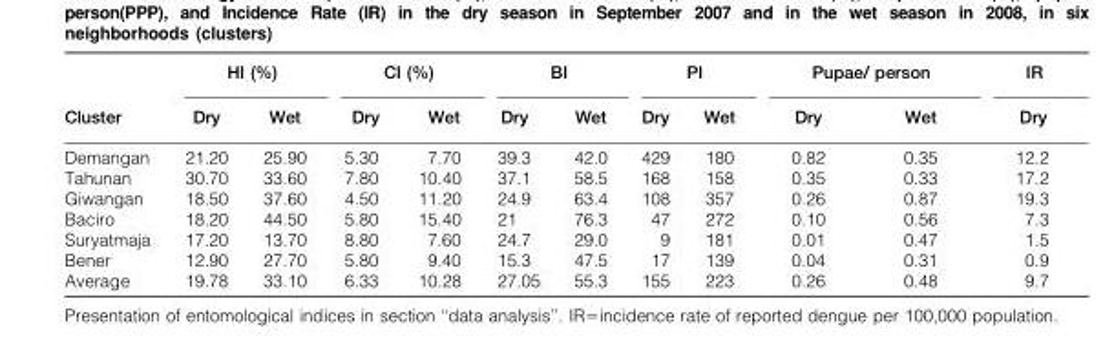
<table><thead><tr><td rowspan="2">Cluster</td><td colspan="2">HI (%)</td><td colspan="2">CI (%)</td><td colspan="2">BI</td><td colspan="2">PI</td><td colspan="2">Pupae/ person</td><td rowspan="2">IR Dry</td></tr><tr><td>Dry</td><td>Wet</td><td>Dry</td><td>Wet</td><td>Dry</td><td>Wet</td><td>Dry</td><td>Wet</td><td>Dry</td><td>Wet</td></tr></thead><tbody><tr><td>Demangan</td><td>21.20</td><td>25.90</td><td>5.30</td><td>7.70</td><td>39.3</td><td>42.0</td><td>429</td><td>180</td><td>0.82</td><td>0.35</td><td>12.2</td></tr><tr><td>Tahunan</td><td>30.70</td><td>33.60</td><td>7.80</td><td>10.40</td><td>37.1</td><td>58.5</td><td>168</td><td>158</td><td>0.35</td><td>0.33</td><td>17.2</td></tr><tr><td>Giwangan</td><td>18.50</td><td>37.60</td><td>4.50</td><td>11.20</td><td>24.9</td><td>63.4</td><td>108</td><td>357</td><td>0.26</td><td>0.87</td><td>19.3</td></tr><tr><td>Baciro</td><td>18.20</td><td>44.50</td><td>5.80</td><td>15.40</td><td>21</td><td>76.3</td><td>47</td><td>272</td><td>0.10</td><td>0.56</td><td>7.3</td></tr><tr><td>Suryatmaja</td><td>17.20</td><td>13.70</td><td>8.80</td><td>7.60</td><td>24.7</td><td>29.0</td><td>9</td><td>181</td><td>0.01</td><td>0.47</td><td>1.5</td></tr><tr><td>Bener</td><td>12.90</td><td>27.70</td><td>5.80</td><td>9.40</td><td>15.3</td><td>47.5</td><td>17</td><td>139</td><td>0.04</td><td>0.31</td><td>0.9</td></tr><tr><td>Average</td><td>19.78</td><td>33.10</td><td>6.33</td><td>10.28</td><td>27.05</td><td>55.3</td><td>155</td><td>223</td><td>0.26</td><td>0.48</td><td>9.7</td></tr></tbody></table>